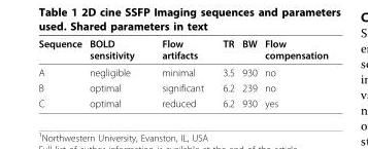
<table><thead><tr><td>Sequence</td><td>BOLD sensitivity</td><td>Flow artifacts</td><td>TR</td><td>BW</td><td>Flow compensation</td></tr></thead><tbody><tr><td>A</td><td>negligible</td><td>minimal</td><td>3.5</td><td>930</td><td>no</td></tr><tr><td>B</td><td>optimal</td><td>significant</td><td>6.2</td><td>239</td><td>no</td></tr><tr><td>C</td><td>optimal</td><td>reduced</td><td>6.2</td><td>930</td><td>yes</td></tr></tbody></table>